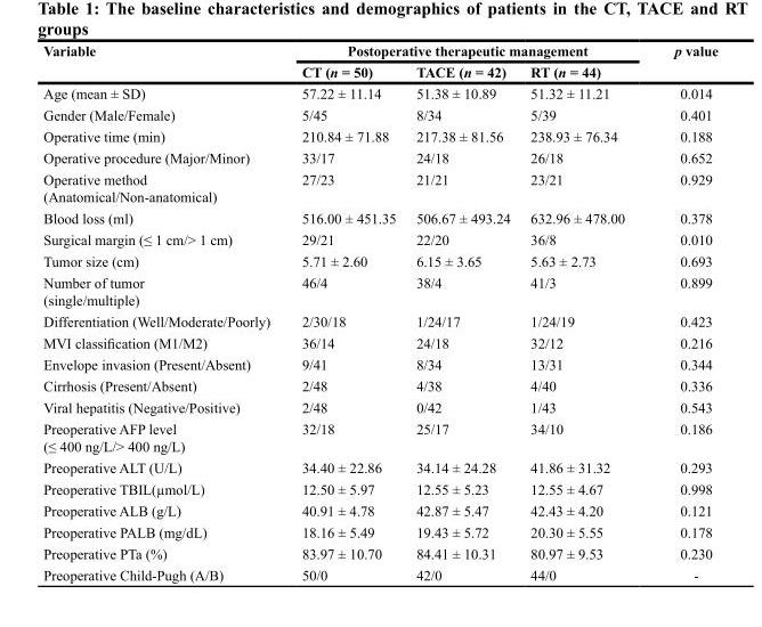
<table><thead><tr><td rowspan="2">Variable</td><td colspan="3">Postoperative therapeutic management</td><td rowspan="2">p value</td></tr><tr><td>CT (n = 50)</td><td>TACE (n = 42)</td><td>RT (n = 44)</td></tr></thead><tbody><tr><td>Age (mean ± SD)</td><td>57.22 ± 11.14</td><td>51.38 ± 10.89</td><td>51.32 ± 11.21</td><td>0.014</td></tr><tr><td>Gender (Male/Female)</td><td>5/45</td><td>8/34</td><td>5/39</td><td>0.401</td></tr><tr><td>Operative time (min)</td><td>210.84 ± 71.88</td><td>217.38 ± 81.56</td><td>238.93 ± 76.34</td><td>0.188</td></tr><tr><td>Operative procedure (Major/Minor)</td><td>33/17</td><td>24/18</td><td>26/18</td><td>0.652</td></tr><tr><td>Operative method (Anatomical/Non-anatomical)</td><td>27/23</td><td>21/21</td><td>23/21</td><td>0.929</td></tr><tr><td>Blood loss (ml)</td><td>516.00 ± 451.35</td><td>506.67 ± 493.24</td><td>632.96 ± 478.00</td><td>0.378</td></tr><tr><td>Surgical margin (≤ 1 cm/&gt; 1 cm)</td><td>29/21</td><td>22/20</td><td>36/8</td><td>0.010</td></tr><tr><td>Tumor size (cm)</td><td>5.71 ± 2.60</td><td>6.15 ± 3.65</td><td>5.63 ± 2.73</td><td>0.693</td></tr><tr><td>Number of tumor (single/multiple)</td><td>46/4</td><td>38/4</td><td>41/3</td><td>0.899</td></tr><tr><td>Differentiation (Well/Moderate/Poorly)</td><td>2/30/18</td><td>1/24/17</td><td>1/24/19</td><td>0.423</td></tr><tr><td>MVI classification (M1/M2)</td><td>36/14</td><td>24/18</td><td>32/12</td><td>0.216</td></tr><tr><td>Envelope invasion (Present/Absent)</td><td>9/41</td><td>8/34</td><td>13/31</td><td>0.344</td></tr><tr><td>Cirrhosis (Present/Absent)</td><td>2/48</td><td>4/38</td><td>4/40</td><td>0.336</td></tr><tr><td>Viral hepatitis (Negative/Positive)</td><td>2/48</td><td>0/42</td><td>1/43</td><td>0.543</td></tr><tr><td>Preoperative AFP level (≤ 400 ng/L/&gt; 400 ng/L)</td><td>32/18</td><td>25/17</td><td>34/10</td><td>0.186</td></tr><tr><td>Preoperative ALT (U/L)</td><td>34.40 ± 22.86</td><td>34.14 ± 24.28</td><td>41.86 ± 31.32</td><td>0.293</td></tr><tr><td>Preoperative TBIL(µmol/L)</td><td>12.50 ± 5.97</td><td>12.55 ± 5.23</td><td>12.55 ± 4.67</td><td>0.998</td></tr><tr><td>Preoperative ALB (g/L)</td><td>40.91 ± 4.78</td><td>42.87 ± 5.47</td><td>42.43 ± 4.20</td><td>0.121</td></tr><tr><td>Preoperative PALB (mg/dL)</td><td>18.16 ± 5.49</td><td>19.43 ± 5.72</td><td>20.30 ± 5.55</td><td>0.178</td></tr><tr><td>Preoperative PTa (%)</td><td>83.97 ± 10.70</td><td>84.41 ± 10.31</td><td>80.97 ± 9.53</td><td>0.230</td></tr><tr><td>Preoperative Child-Pugh (A/B)</td><td>50/0</td><td>42/0</td><td>44/0</td><td>-</td></tr></tbody></table>